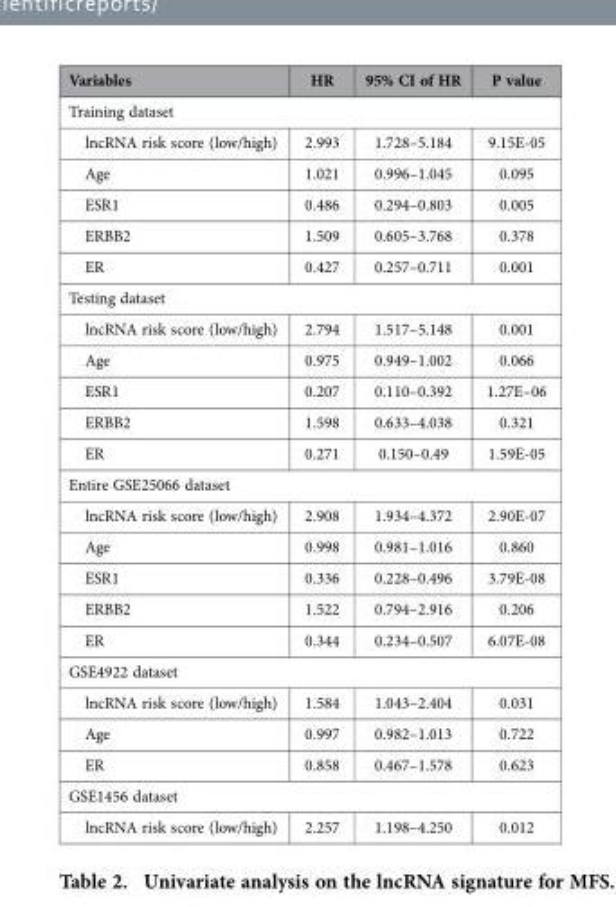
<table><thead><tr><td>Variables</td><td>HR</td><td>95% CI of HR</td><td>P value</td></tr></thead><tbody><tr><td colspan="4">Training dataset</td></tr><tr><td>lncRNA risk score (low/high)</td><td>2.993</td><td>1.728–5.184</td><td>9.15E-05</td></tr><tr><td>Age</td><td>1.021</td><td>0.996–1.045</td><td>0.095</td></tr><tr><td>ESR1</td><td>0.486</td><td>0.294–0.803</td><td>0.005</td></tr><tr><td>ERBB2</td><td>1.509</td><td>0.605–3.768</td><td>0.378</td></tr><tr><td>ER</td><td>0.427</td><td>0.257–0.711</td><td>0.001</td></tr><tr><td colspan="4">Testing dataset</td></tr><tr><td>lncRNA risk score (low/high)</td><td>2.794</td><td>1.517–5.148</td><td>0.001</td></tr><tr><td>Age</td><td>0.975</td><td>0.949–1.002</td><td>0.066</td></tr><tr><td>ESR1</td><td>0.207</td><td>0.110–0.392</td><td>1.27E–06</td></tr><tr><td>ERBB2</td><td>1.598</td><td>0.633–4.038</td><td>0.321</td></tr><tr><td>ER</td><td>0.271</td><td>0.150–0.49</td><td>1.59E-05</td></tr><tr><td colspan="4">Entire GSE25066 dataset</td></tr><tr><td>lncRNA risk score (low/high)</td><td>2.908</td><td>1.934–4.372</td><td>2.90E-07</td></tr><tr><td>Age</td><td>0.998</td><td>0.981–1.016</td><td>0.860</td></tr><tr><td>ESR1</td><td>0.336</td><td>0.228–0.496</td><td>3.79E-08</td></tr><tr><td>ERBB2</td><td>1.522</td><td>0.794–2.916</td><td>0.206</td></tr><tr><td>ER</td><td>0.344</td><td>0.234–0.507</td><td>6.07E-08</td></tr><tr><td colspan="4">GSE4922 dataset</td></tr><tr><td>lncRNA risk score (low/high)</td><td>1.584</td><td>1.043–2.404</td><td>0.031</td></tr><tr><td>Age</td><td>0.997</td><td>0.982–1.013</td><td>0.722</td></tr><tr><td>ER</td><td>0.858</td><td>0.467–1.578</td><td>0.623</td></tr><tr><td colspan="4">GSE1456 dataset</td></tr><tr><td>lncRNA risk score (low/high)</td><td>2.257</td><td>1.198–4.250</td><td>0.012</td></tr></tbody></table>